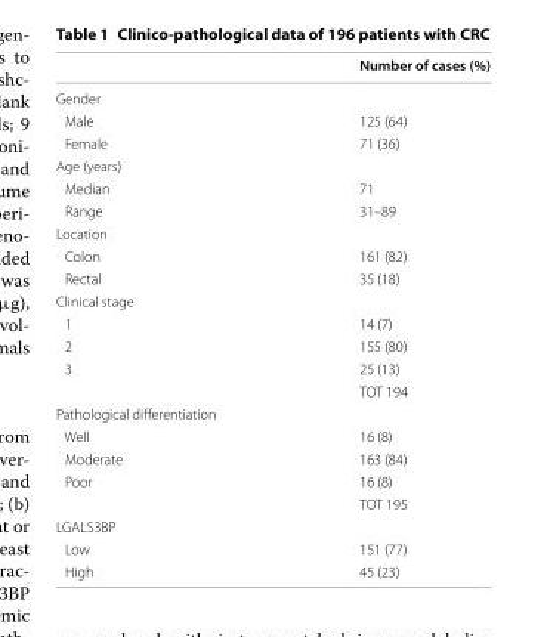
<table><thead><tr><td></td><td>Number of cases (%)</td></tr></thead><tbody><tr><td colspan="2">Gender</td></tr><tr><td>Male</td><td>125 (64)</td></tr><tr><td>Female</td><td>71 (36)</td></tr><tr><td colspan="2">Age (years)</td></tr><tr><td>Median</td><td>71</td></tr><tr><td>Range</td><td>31–89</td></tr><tr><td colspan="2">Location</td></tr><tr><td>Colon</td><td>161 (82)</td></tr><tr><td>Rectal</td><td>35 (18)</td></tr><tr><td colspan="2">Clinical stage</td></tr><tr><td>1</td><td>14 (7)</td></tr><tr><td>2</td><td>155 (80)</td></tr><tr><td rowspan="2">3</td><td>25 (13)</td></tr><tr><td>TOT 194</td></tr><tr><td colspan="2">Pathological differentiation</td></tr><tr><td>Well</td><td>16 (8)</td></tr><tr><td>Moderate</td><td>163 (84)</td></tr><tr><td rowspan="2">Poor</td><td>16 (8)</td></tr><tr><td>TOT 195</td></tr><tr><td colspan="2">LGALS3BP</td></tr><tr><td>Low</td><td>151 (77)</td></tr><tr><td>High</td><td>45 (23)</td></tr></tbody></table>